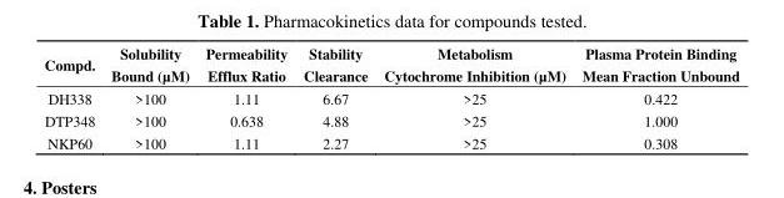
<table><thead><tr><td>Compd.</td><td>Solubility Bound (µM)</td><td>Permeability Efflux Ratio</td><td>Stability Clearance</td><td>Metabolism Cytochrome Inhibition (µM)</td><td>Plasma Protein Binding Mean Fraction Unbound</td></tr></thead><tbody><tr><td>DH338</td><td>&gt;100</td><td>1.11</td><td>6.67</td><td>&gt;25</td><td>0.422</td></tr><tr><td>DTP348</td><td>&gt;100</td><td>0.638</td><td>4.88</td><td>&gt;25</td><td>1.000</td></tr><tr><td>NKP60</td><td>&gt;100</td><td>1.11</td><td>2.27</td><td>&gt;25</td><td>0.308</td></tr></tbody></table>